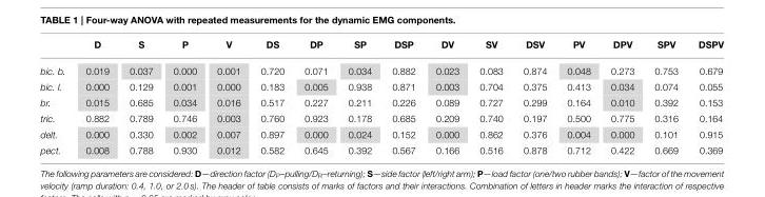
<table><thead><tr><td></td><td>D</td><td>S</td><td>P</td><td>V</td><td>DS</td><td>DP</td><td>SP</td><td>DSP</td><td>DV</td><td>SV</td><td>DSV</td><td>PV</td><td>DPV</td><td>SPV</td><td>DSPV</td></tr></thead><tbody><tr><td>bic. b.</td><td>0.019</td><td>0.037</td><td>0.000</td><td>0.001</td><td>0.720</td><td>0.071</td><td>0.034</td><td>0.882</td><td>0.023</td><td>0.083</td><td>0.874</td><td>0.048</td><td>0.273</td><td>0.753</td><td>0.679</td></tr><tr><td>bic. l.</td><td>0.000</td><td>0.129</td><td>0.001</td><td>0.000</td><td>0.183</td><td>0.005</td><td>0.938</td><td>0.871</td><td>0.003</td><td>0.704</td><td>0.375</td><td>0.413</td><td>0.034</td><td>0.074</td><td>0.055</td></tr><tr><td>br.</td><td>0.015</td><td>0.685</td><td>0.034</td><td>0.016</td><td>0.517</td><td>0.227</td><td>0.211</td><td>0.226</td><td>0.089</td><td>0.727</td><td>0.299</td><td>0.164</td><td>0.010</td><td>0.392</td><td>0.153</td></tr><tr><td>tric.</td><td>0.882</td><td>0.789</td><td>0.746</td><td>0.003</td><td>0.760</td><td>0.923</td><td>0.178</td><td>0.685</td><td>0.209</td><td>0.740</td><td>0.197</td><td>0.500</td><td>0.775</td><td>0.316</td><td>0.164</td></tr><tr><td>delt.</td><td>0.000</td><td>0.330</td><td>0.002</td><td>0.007</td><td>0.897</td><td>0.000</td><td>0.024</td><td>0.152</td><td>0.000</td><td>0.862</td><td>0.376</td><td>0.004</td><td>0.000</td><td>0.101</td><td>0.915</td></tr><tr><td>pect.</td><td>0.008</td><td>0.788</td><td>0.930</td><td>0.012</td><td>0.582</td><td>0.645</td><td>0.392</td><td>0.567</td><td>0.166</td><td>0.516</td><td>0.878</td><td>0.712</td><td>0.422</td><td>0.669</td><td>0.369</td></tr></tbody></table>